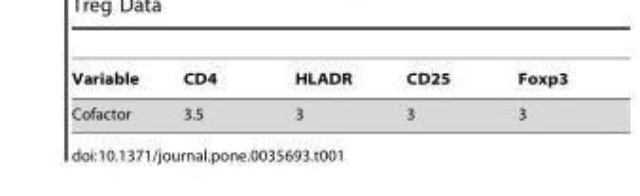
<table><thead><tr><td>Variable</td><td>CD4</td><td>HLADR</td><td>CD25</td><td>Foxp3</td></tr></thead><tbody><tr><td>Cofactor</td><td>3.5</td><td>3</td><td>3</td><td>3</td></tr></tbody></table>